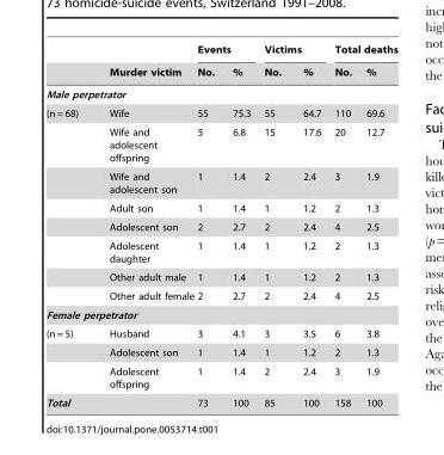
<table><thead><tr><td rowspan="2"></td><td rowspan="2">Murder victim</td><td colspan="2">Events</td><td colspan="2">Victims</td><td colspan="2">Total deaths</td></tr><tr><td>No.</td><td>%</td><td>No.</td><td>%</td><td>No.</td><td>%</td></tr></thead><tbody><tr><td colspan="8">Male perpetrator</td></tr><tr><td rowspan="8">(n = 68)</td><td>Wife</td><td>55</td><td>75.3</td><td>55</td><td>64.7</td><td>110</td><td>69.6</td></tr><tr><td>Wife and adolescent offspring</td><td>5</td><td>6.8</td><td>15</td><td>17.6</td><td>20</td><td>12.7</td></tr><tr><td>Wife and adolescent son</td><td>1</td><td>1.4</td><td>2</td><td>2.4</td><td>3</td><td>1.9</td></tr><tr><td>Adult son</td><td>1</td><td>1.4</td><td>1</td><td>1.2</td><td>2</td><td>1.3</td></tr><tr><td>Adolescent son</td><td>2</td><td>2.7</td><td>2</td><td>2.4</td><td>4</td><td>2.5</td></tr><tr><td>Adolescent daughter</td><td>1</td><td>1.4</td><td>1</td><td>1.2</td><td>2</td><td>1.3</td></tr><tr><td>Other adult male</td><td>1</td><td>1.4</td><td>1</td><td>1.2</td><td>2</td><td>1.3</td></tr><tr><td>Other adult female</td><td>2</td><td>2.7</td><td>2</td><td>2.4</td><td>4</td><td>2.5</td></tr><tr><td colspan="8">Female perpetrator</td></tr><tr><td rowspan="3">(n = 5)</td><td>Husband</td><td>3</td><td>4.1</td><td>3</td><td>3.5</td><td>6</td><td>3.8</td></tr><tr><td>Adolescent son</td><td>1</td><td>1.4</td><td>1</td><td>1.2</td><td>2</td><td>1.3</td></tr><tr><td>Adolescent offspring</td><td>1</td><td>1.4</td><td>2</td><td>2.4</td><td>3</td><td>1.9</td></tr><tr><td>Total</td><td></td><td>73</td><td>100</td><td>85</td><td>100</td><td>158</td><td>100</td></tr></tbody></table>